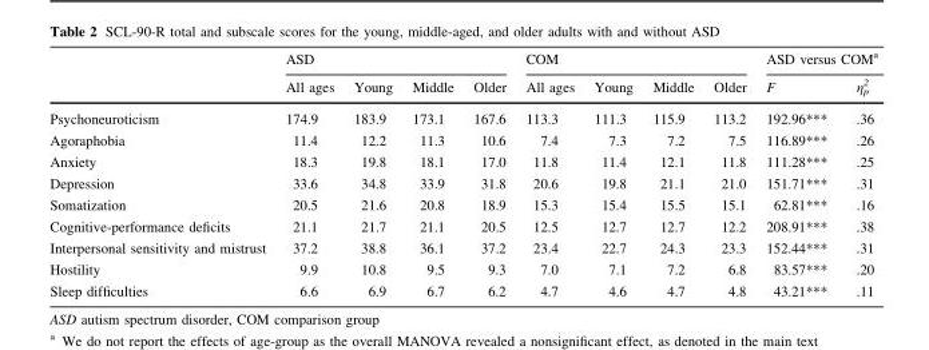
<table><thead><tr><td rowspan="2"></td><td colspan="4">ASD</td><td colspan="4">COM</td><td colspan="2">ASD versus COM<sup>a</sup></td></tr><tr><td>All ages</td><td>Young</td><td>Middle</td><td>Older</td><td>All ages</td><td>Young</td><td>Middle</td><td>Older</td><td>F</td><td>η<sub>p</sub> <sup>2</sup></td></tr></thead><tbody><tr><td>Psychoneuroticism</td><td>174.9</td><td>183.9</td><td>173.1</td><td>167.6</td><td>113.3</td><td>111.3</td><td>115.9</td><td>113.2</td><td>192.96***</td><td>.36</td></tr><tr><td>Agoraphobia</td><td>11.4</td><td>12.2</td><td>11.3</td><td>10.6</td><td>7.4</td><td>7.3</td><td>7.2</td><td>7.5</td><td>116.89***</td><td>.26</td></tr><tr><td>Anxiety</td><td>18.3</td><td>19.8</td><td>18.1</td><td>17.0</td><td>11.8</td><td>11.4</td><td>12.1</td><td>11.8</td><td>111.28***</td><td>.25</td></tr><tr><td>Depression</td><td>33.6</td><td>34.8</td><td>33.9</td><td>31.8</td><td>20.6</td><td>19.8</td><td>21.1</td><td>21.0</td><td>151.71***</td><td>.31</td></tr><tr><td>Somatization</td><td>20.5</td><td>21.6</td><td>20.8</td><td>18.9</td><td>15.3</td><td>15.4</td><td>15.5</td><td>15.1</td><td>62.81***</td><td>.16</td></tr><tr><td>Cognitive-performance deficits</td><td>21.1</td><td>21.7</td><td>21.1</td><td>20.5</td><td>12.5</td><td>12.7</td><td>12.7</td><td>12.2</td><td>208.91***</td><td>.38</td></tr><tr><td>Interpersonal sensitivity and mistrust</td><td>37.2</td><td>38.8</td><td>36.1</td><td>37.2</td><td>23.4</td><td>22.7</td><td>24.3</td><td>23.3</td><td>152.44***</td><td>.31</td></tr><tr><td>Hostility</td><td>9.9</td><td>10.8</td><td>9.5</td><td>9.3</td><td>7.0</td><td>7.1</td><td>7.2</td><td>6.8</td><td>83.57***</td><td>.20</td></tr><tr><td>Sleep difficulties</td><td>6.6</td><td>6.9</td><td>6.7</td><td>6.2</td><td>4.7</td><td>4.6</td><td>4.7</td><td>4.8</td><td>43.21***</td><td>.11</td></tr></tbody></table>